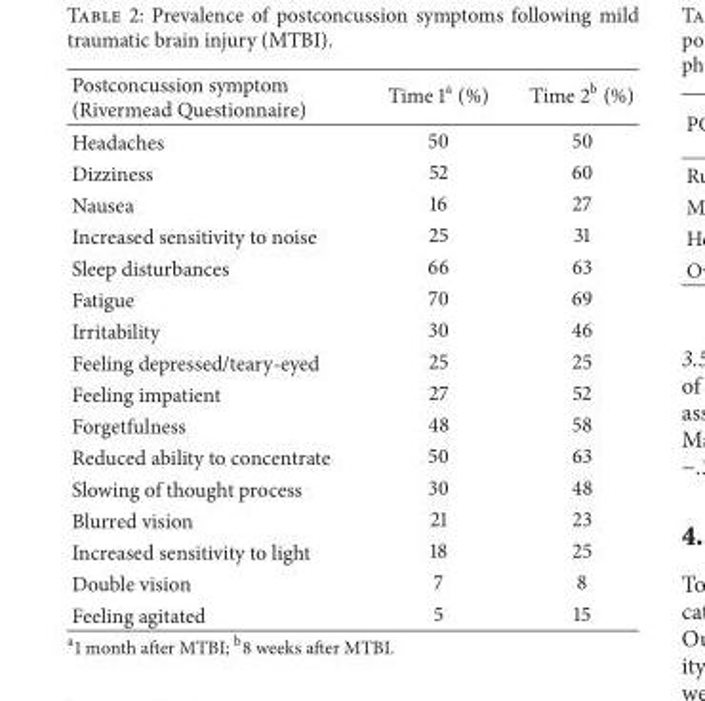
<table><thead><tr><td>Postconcussion symptom (Rivermead Questionnaire)</td><td>Time 1<sup>a</sup> (%)</td><td>Time 2<sup>b</sup> (%)</td></tr></thead><tbody><tr><td>Headaches</td><td>50</td><td>50</td></tr><tr><td>Dizziness</td><td>52</td><td>60</td></tr><tr><td>Nausea</td><td>16</td><td>27</td></tr><tr><td>Increased sensitivity to noise</td><td>25</td><td>31</td></tr><tr><td>Sleep disturbances</td><td>66</td><td>63</td></tr><tr><td>Fatigue</td><td>70</td><td>69</td></tr><tr><td>Irritability</td><td>30</td><td>46</td></tr><tr><td>Feeling depressed/teary-eyed</td><td>25</td><td>25</td></tr><tr><td>Feeling impatient</td><td>27</td><td>52</td></tr><tr><td>Forgetfulness</td><td>48</td><td>58</td></tr><tr><td>Reduced ability to concentrate</td><td>50</td><td>63</td></tr><tr><td>Slowing of thought process</td><td>30</td><td>48</td></tr><tr><td>Blurred vision</td><td>21</td><td>23</td></tr><tr><td>Increased sensitivity to light</td><td>18</td><td>25</td></tr><tr><td>Double vision</td><td>7</td><td>8</td></tr><tr><td>Feeling agitated</td><td>5</td><td>15</td></tr></tbody></table>